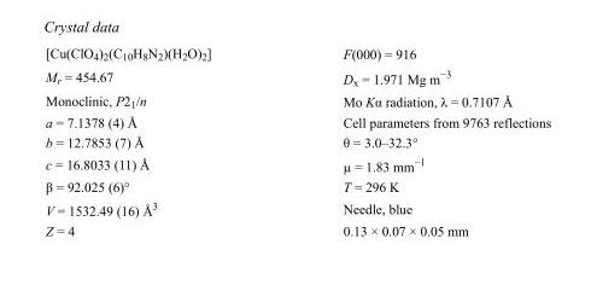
<table><tbody><tr><td>[Cu(ClO<sub>4</sub>)<sub>2</sub>(C<sub>10</sub>H<sub>8</sub>N<sub>2</sub>)(H<sub>2</sub>O)<sub>2</sub>]</td><td>F(000) = 916</td></tr><tr><td>M<sub>r</sub> = 454.67</td><td>D<sub>x</sub> = 1.971 Mg m<sup>−3</sup></td></tr><tr><td>Monoclinic, P2<sub>1</sub>/n</td><td>Mo Kα radiation, λ = 0.7107 Å</td></tr><tr><td>a = 7.1378 (4) Å</td><td>Cell parameters from 9763 reflections</td></tr><tr><td>b = 12.7853 (7) Å</td><td>θ = 3.0–32.3°</td></tr><tr><td>c = 16.8033 (11) Å</td><td>µ = 1.83 mm<sup>−1</sup></td></tr><tr><td>β = 92.025 (6)°</td><td>T = 296 K</td></tr><tr><td>V = 1532.49 (16) Å<sup>3</sup></td><td>Needle, blue</td></tr><tr><td>Z = 4</td><td>0.13 × 0.07 × 0.05 mm</td></tr></tbody></table>